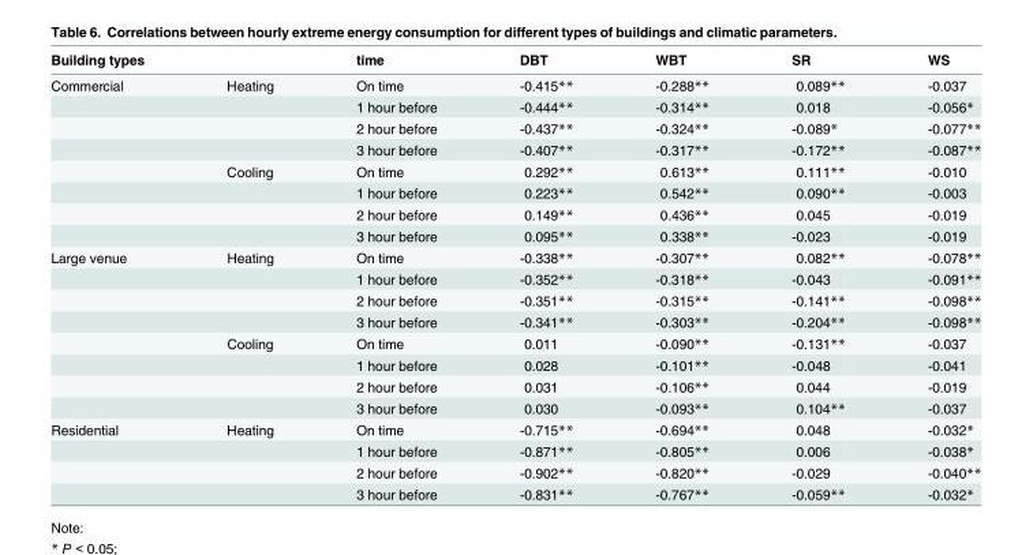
<table><thead><tr><td>Building types</td><td></td><td>time</td><td>DBT</td><td>WBT</td><td>SR</td><td>WS</td></tr></thead><tbody><tr><td rowspan="8">Commercial</td><td>Heating</td><td>On time</td><td>-0.415**</td><td>-0.288**</td><td>0.089**</td><td>-0.037</td></tr><tr><td></td><td>1 hour before</td><td>-0.444**</td><td>-0.314**</td><td>0.018</td><td>-0.056*</td></tr><tr><td></td><td>2 hour before</td><td>-0.437**</td><td>-0.324**</td><td>-0.089*</td><td>-0.077**</td></tr><tr><td></td><td>3 hour before</td><td>-0.407**</td><td>-0.317**</td><td>-0.172**</td><td>-0.087**</td></tr><tr><td>Cooling</td><td>On time</td><td>0.292**</td><td>0.613**</td><td>0.111**</td><td>-0.010</td></tr><tr><td></td><td>1 hour before</td><td>0.223**</td><td>0.542**</td><td>0.090**</td><td>-0.003</td></tr><tr><td></td><td>2 hour before</td><td>0.149**</td><td>0.436**</td><td>0.045</td><td>-0.019</td></tr><tr><td></td><td>3 hour before</td><td>0.095**</td><td>0.338**</td><td>-0.023</td><td>-0.019</td></tr><tr><td rowspan="8">Large venue</td><td>Heating</td><td>On time</td><td>-0.338**</td><td>-0.307**</td><td>0.082**</td><td>-0.078**</td></tr><tr><td></td><td>1 hour before</td><td>-0.352**</td><td>-0.318**</td><td>-0.043</td><td>-0.091**</td></tr><tr><td></td><td>2 hour before</td><td>-0.351**</td><td>-0.315**</td><td>-0.141**</td><td>-0.098**</td></tr><tr><td></td><td>3 hour before</td><td>-0.341**</td><td>-0.303**</td><td>-0.204**</td><td>-0.098**</td></tr><tr><td>Cooling</td><td>On time</td><td>0.011</td><td>-0.090**</td><td>-0.131**</td><td>-0.037</td></tr><tr><td></td><td>1 hour before</td><td>0.028</td><td>-0.101**</td><td>-0.048</td><td>-0.041</td></tr><tr><td></td><td>2 hour before</td><td>0.031</td><td>-0.106**</td><td>0.044</td><td>-0.019</td></tr><tr><td></td><td>3 hour before</td><td>0.030</td><td>-0.093**</td><td>0.104**</td><td>-0.037</td></tr><tr><td rowspan="4">Residential</td><td>Heating</td><td>On time</td><td>-0.715**</td><td>-0.694**</td><td>0.048</td><td>-0.032*</td></tr><tr><td></td><td>1 hour before</td><td>-0.871**</td><td>-0.805**</td><td>0.006</td><td>-0.038*</td></tr><tr><td></td><td>2 hour before</td><td>-0.902**</td><td>-0.820**</td><td>-0.029</td><td>-0.040**</td></tr><tr><td></td><td>3 hour before</td><td>-0.831**</td><td>-0.767**</td><td>-0.059**</td><td>-0.032*</td></tr></tbody></table>